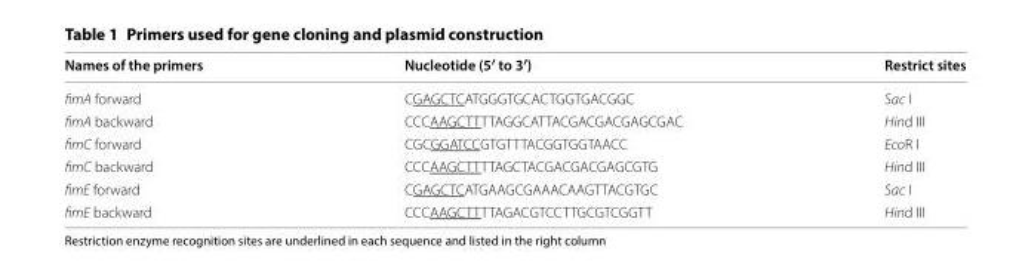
<table><thead><tr><td>Names of the primers</td><td>Nucleotide (5′ to 3′)</td><td>Restrict sites</td></tr></thead><tbody><tr><td>fimA forward</td><td>CGAG CTC ATG GGT GCA CTG GTG ACG GC</td><td>Sac I</td></tr><tr><td>fimA backward</td><td>CCC AAG CTT TTA GGC ATT ACG ACG ACG AGC GAC</td><td>Hind III</td></tr><tr><td>fimC forward</td><td>CGC GGA TCC GTG TTT ACG GTG GTA ACC</td><td>EcoR I</td></tr><tr><td>fimC backward</td><td>CCC AAG CTT TTA GCT ACG ACG ACG AGC GTG</td><td>Hind III</td></tr><tr><td>fimE forward</td><td>CGAG CTC ATG AAG CGA AAC AAG TTA CGTGC</td><td>Sac I</td></tr><tr><td>fimE backward</td><td>CCC AAG CTT TTA GAC GTC CTT GCG TCG GTT</td><td>Hind III</td></tr></tbody></table>